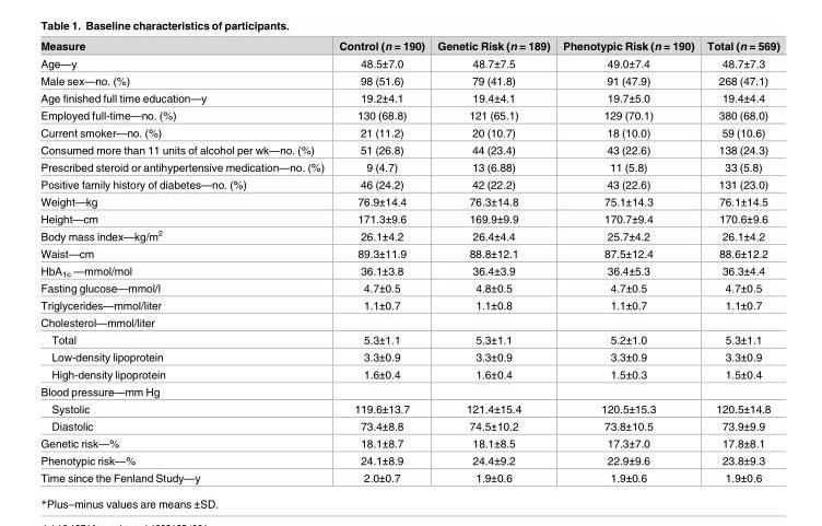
<table><thead><tr><td>Measure</td><td>Control (n = 190)</td><td>Genetic Risk (n = 189)</td><td>Phenotypic Risk (n = 190)</td><td>Total (n = 569)</td></tr></thead><tbody><tr><td>Age—y</td><td>48.5±7.0</td><td>48.7±7.5</td><td>49.0±7.4</td><td>48.7±7.3</td></tr><tr><td>Male sex—no. (%)</td><td>98 (51.6)</td><td>79 (41.8)</td><td>91 (47.9)</td><td>268 (47.1)</td></tr><tr><td>Age finished full time education—y</td><td>19.2±4.1</td><td>19.4±4.1</td><td>19.7±5.0</td><td>19.4±4.4</td></tr><tr><td>Employed full-time—no. (%)</td><td>130 (68.8)</td><td>121 (65.1)</td><td>129 (70.1)</td><td>380 (68.0)</td></tr><tr><td>Current smoker—no. (%)</td><td>21 (11.2)</td><td>20 (10.7)</td><td>18 (10.0)</td><td>59 (10.6)</td></tr><tr><td>Consumed more than 11 units of alcohol per wk—no. (%)</td><td>51 (26.8)</td><td>44 (23.4)</td><td>43 (22.6)</td><td>138 (24.3)</td></tr><tr><td>Prescribed steroid or antihypertensive medication—no. (%)</td><td>9 (4.7)</td><td>13 (6.88)</td><td>11 (5.8)</td><td>33 (5.8)</td></tr><tr><td>Positive family history of diabetes—no. (%)</td><td>46 (24.2)</td><td>42 (22.2)</td><td>43 (22.6)</td><td>131 (23.0)</td></tr><tr><td>Weight—kg</td><td>76.9±14.4</td><td>76.3±14.8</td><td>75.1±14.3</td><td>76.1±14.5</td></tr><tr><td>Height—cm</td><td>171.3±9.6</td><td>169.9±9.9</td><td>170.7±9.4</td><td>170.6±9.6</td></tr><tr><td>Body mass index—kg/m<sup>2</sup></td><td>26.1±4.2</td><td>26.4±4.4</td><td>25.7±4.2</td><td>26.1±4.2</td></tr><tr><td>Waist—cm</td><td>89.3±11.9</td><td>88.8±12.1</td><td>87.5±12.4</td><td>88.6±12.2</td></tr><tr><td>HbA<sub>1c</sub> —mmol/mol</td><td>36.1±3.8</td><td>36.4±3.9</td><td>36.4±5.3</td><td>36.3±4.4</td></tr><tr><td>Fasting glucose—mmol/l</td><td>4.7±0.5</td><td>4.8±0.5</td><td>4.7±0.5</td><td>4.7±0.5</td></tr><tr><td>Triglycerides—mmol/liter</td><td>1.1±0.7</td><td>1.1±0.8</td><td>1.1±0.7</td><td>1.1±0.7</td></tr><tr><td colspan="5">Cholesterol—mmol/liter</td></tr><tr><td>Total</td><td>5.3±1.1</td><td>5.3±1.1</td><td>5.2±1.0</td><td>5.3±1.1</td></tr><tr><td>Low-density lipoprotein</td><td>3.3±0.9</td><td>3.3±0.9</td><td>3.3±0.9</td><td>3.3±0.9</td></tr><tr><td>High-density lipoprotein</td><td>1.6±0.4</td><td>1.6±0.4</td><td>1.5±0.3</td><td>1.5±0.4</td></tr><tr><td colspan="5">Blood pressure—mm Hg</td></tr><tr><td>Systolic</td><td>119.6±13.7</td><td>121.4±15.4</td><td>120.5±15.3</td><td>120.5±14.8</td></tr><tr><td>Diastolic</td><td>73.4±8.8</td><td>74.5±10.2</td><td>73.8±10.5</td><td>73.9±9.9</td></tr><tr><td>Genetic risk—%</td><td>18.1±8.7</td><td>18.1±8.5</td><td>17.3±7.0</td><td>17.8±8.1</td></tr><tr><td>Phenotypic risk—%</td><td>24.1±8.9</td><td>24.4±9.2</td><td>22.9±9.6</td><td>23.8±9.3</td></tr><tr><td>Time since the Fenland Study—y</td><td>2.0±0.7</td><td>1.9±0.6</td><td>1.9±0.6</td><td>1.9±0.6</td></tr></tbody></table>